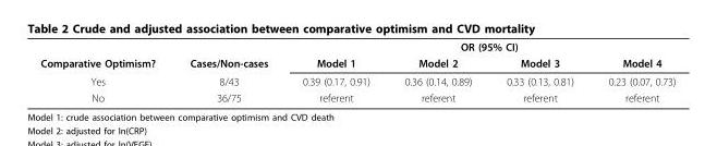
<table><thead><tr><td rowspan="2">Comparative Optimism?</td><td rowspan="2">Cases/Non-cases</td><td colspan="4">OR (95% CI)</td></tr><tr><td>Model 1</td><td>Model 2</td><td>Model 3</td><td>Model 4</td></tr></thead><tbody><tr><td>Yes</td><td>8/43</td><td>0.39 (0.17, 0.91)</td><td>0.36 (0.14, 0.89)</td><td>0.33 (0.13, 0.81)</td><td>0.23 (0.07, 0.73)</td></tr><tr><td>No</td><td>36/75</td><td>referent</td><td>referent</td><td>referent</td><td>referent</td></tr></tbody></table>